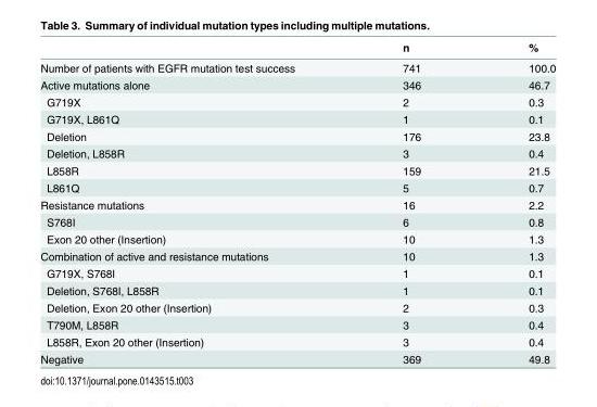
<table><thead><tr><td></td><td>n</td><td>%</td></tr></thead><tbody><tr><td>Number of patients with EGFR mutation test success</td><td>741</td><td>100.0</td></tr><tr><td>Active mutations alone</td><td>346</td><td>46.7</td></tr><tr><td>G719X</td><td>2</td><td>0.3</td></tr><tr><td>G719X, L861Q</td><td>1</td><td>0.1</td></tr><tr><td>Deletion</td><td>176</td><td>23.8</td></tr><tr><td>Deletion, L858R</td><td>3</td><td>0.4</td></tr><tr><td>L858R</td><td>159</td><td>21.5</td></tr><tr><td>L861Q</td><td>5</td><td>0.7</td></tr><tr><td>Resistance mutations</td><td>16</td><td>2.2</td></tr><tr><td>S768I</td><td>6</td><td>0.8</td></tr><tr><td>Exon 20 other (Insertion)</td><td>10</td><td>1.3</td></tr><tr><td>Combination of active and resistance mutations</td><td>10</td><td>1.3</td></tr><tr><td>G719X, S768I</td><td>1</td><td>0.1</td></tr><tr><td>Deletion, S768I, L858R</td><td>1</td><td>0.1</td></tr><tr><td>Deletion, Exon 20 other (Insertion)</td><td>2</td><td>0.3</td></tr><tr><td>T790M, L858R</td><td>3</td><td>0.4</td></tr><tr><td>L858R, Exon 20 other (Insertion)</td><td>3</td><td>0.4</td></tr><tr><td>Negative</td><td>369</td><td>49.8</td></tr></tbody></table>